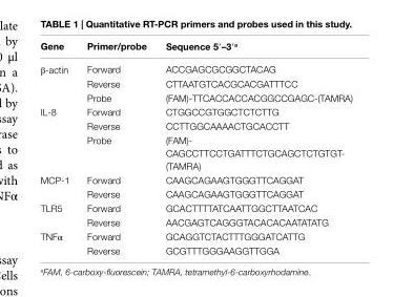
<table><thead><tr><td>gene</td><td>Primer/probe</td><td>sequence 5′–3′<sup>a</sup></td></tr></thead><tbody><tr><td rowspan="3">β-actin</td><td>Forward</td><td>ACCGAGCGCGGCTACAG</td></tr><tr><td>Reverse</td><td>CTTAATGTCACGCACGATTTCC</td></tr><tr><td>Probe</td><td>(FAM)-TTCACCACCACGGCCGAGC-(TAMRA)</td></tr><tr><td rowspan="3">IL-8</td><td>Forward</td><td>CTGGCCGTGGCTCTCTTG</td></tr><tr><td>Reverse</td><td>CCTTGGCAAAACTGCACCTT</td></tr><tr><td>Probe</td><td>(FAM)- CAGCCTTCCTGATTTCTGCAGCTCTGTGT- (TAMRA)</td></tr><tr><td rowspan="2">MCP-1</td><td>Forward</td><td>CAAGCAGAAGTGGGTTCAGGAT</td></tr><tr><td>Reverse</td><td>CAAGCAGAAGTGGGTTCAGGAT</td></tr><tr><td rowspan="2">TLR5</td><td>Forward</td><td>GCACTTTTATCAATTGGCTTAATCAC</td></tr><tr><td>Reverse</td><td>AACGAGTCAGGGTACACACAATATATG</td></tr><tr><td rowspan="2">TNFα</td><td>Forward</td><td>GCAGGTCTACTTTGGGATCATTG</td></tr><tr><td>Reverse</td><td>GCGTTTGGGAAGGTTGGA</td></tr></tbody></table>